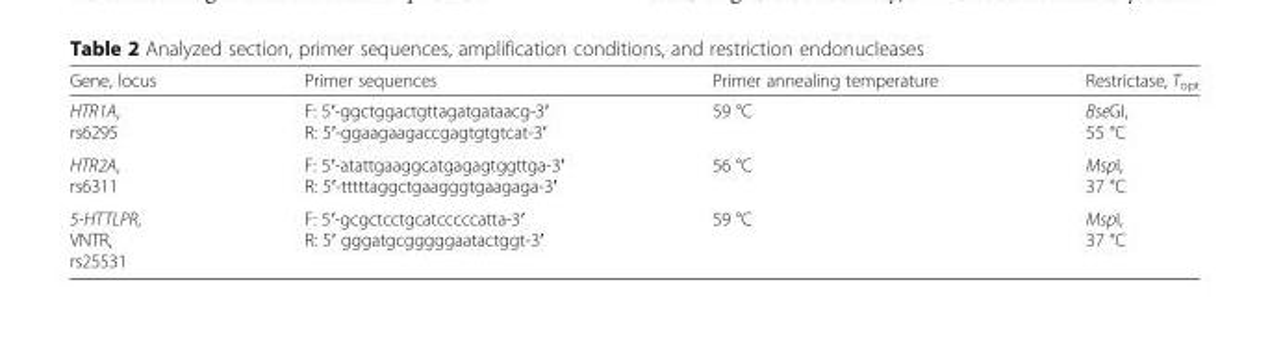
<table><thead><tr><td>Gene, locus</td><td>Primer sequences</td><td>Primer annealing temperature</td><td>Restrictase, T<sub>opt</sub></td></tr></thead><tbody><tr><td>HTR1A, rs6295</td><td>F: 5′-ggctggactgttagatgataacg-3′ R: 5′-ggaagaagaccgagtgtgtcat-3′</td><td>59 °С</td><td>BseGI, 55 °C</td></tr><tr><td>HTR2A, rs6311</td><td>F: 5′-atattgaaggcatgagagtggttga-3′ R: 5′-tttttaggctgaagggtgaagaga-3′</td><td>56 °С</td><td>MspI, 37 °C</td></tr><tr><td>5-HTTLPR, VNTR, rs25531</td><td>F: 5′-gcgctcctgcatcccccatta-3′ R: 5′ gggatgcgggggaatactggt-3′</td><td>59 °С</td><td>MspI, 37 °C</td></tr></tbody></table>